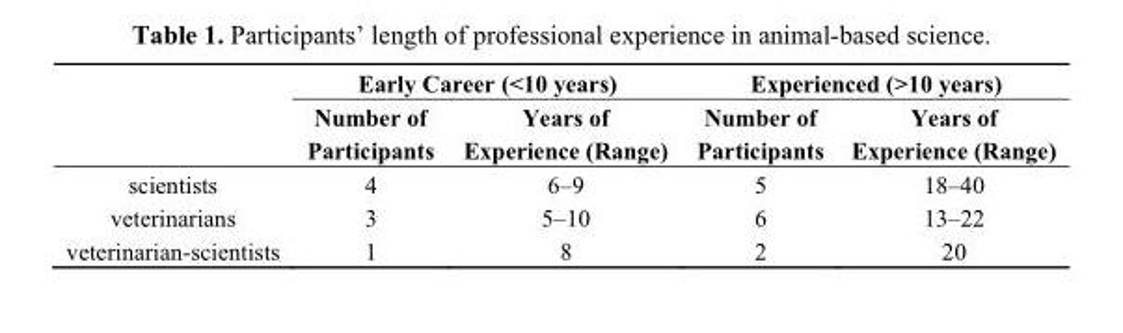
<table><thead><tr><td rowspan="2"></td><td colspan="2">Early Career (&lt;10 years)</td><td colspan="2">Experienced (&gt;10 years)</td></tr><tr><td>Number of Participants</td><td>Years of Experience (Range)</td><td>Number of Participants</td><td>Years of Experience (Range)</td></tr></thead><tbody><tr><td>scientists</td><td>4</td><td>6–9</td><td>5</td><td>18–40</td></tr><tr><td>veterinarians</td><td>3</td><td>5–10</td><td>6</td><td>13–22</td></tr><tr><td>veterinarian-scientists</td><td>1</td><td>8</td><td>2</td><td>20</td></tr></tbody></table>